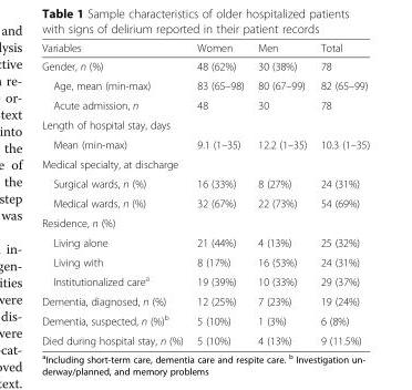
<table><thead><tr><td>Variables</td><td>Women</td><td>Men</td><td>Total</td></tr></thead><tbody><tr><td>Gender, n (%)</td><td>48 (62%)</td><td>30 (38%)</td><td>78</td></tr><tr><td>Age, mean (min-max)</td><td>83 (65–98)</td><td>80 (67–99)</td><td>82 (65–99)</td></tr><tr><td>Acute admission, n</td><td>48</td><td>30</td><td>78</td></tr><tr><td colspan="4">Length of hospital stay, days</td></tr><tr><td>Mean (min-max)</td><td>9.1 (1–35)</td><td>12.2 (1–35)</td><td>10.3 (1–35)</td></tr><tr><td colspan="4">Medical specialty, at discharge</td></tr><tr><td>Surgical wards, n (%)</td><td>16 (33%)</td><td>8 (27%)</td><td>24 (31%)</td></tr><tr><td>Medical wards, n (%)</td><td>32 (67%)</td><td>22 (73%)</td><td>54 (69%)</td></tr><tr><td colspan="4">Residence, n (%)</td></tr><tr><td>Living alone</td><td>21 (44%)</td><td>4 (13%)</td><td>25 (32%)</td></tr><tr><td>Living with</td><td>8 (17%)</td><td>16 (53%)</td><td>24 (31%)</td></tr><tr><td>Institutionalized care<sup>a</sup></td><td>19 (39%)</td><td>10 (33%)</td><td>29 (37%)</td></tr><tr><td>Dementia, diagnosed, n (%)</td><td>12 (25%)</td><td>7 (23%)</td><td>19 (24%)</td></tr><tr><td>Dementia, suspected, n (%)<sup>b</sup></td><td>5 (10%)</td><td>1 (3%)</td><td>6 (8%)</td></tr><tr><td>Died during hospital stay, n (%)</td><td>5 (10%)</td><td>4 (13%)</td><td>9 (11.5%)</td></tr></tbody></table>